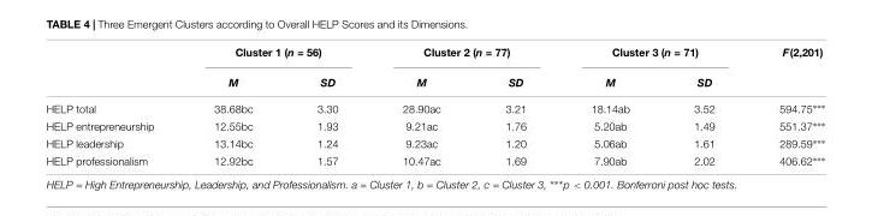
<table><thead><tr><td rowspan="2"></td><td colspan="2">Cluster 1 (n = 56)</td><td colspan="2">Cluster 2 (n = 77)</td><td colspan="2">Cluster 3 (n = 71)</td><td rowspan="2">F(2,201)</td></tr><tr><td>M</td><td>SD</td><td>M</td><td>SD</td><td>M</td><td>SD</td></tr></thead><tbody><tr><td>HELP total</td><td>38.68bc</td><td>3.30</td><td>28.90ac</td><td>3.21</td><td>18.14ab</td><td>3.52</td><td>594.75∗∗∗</td></tr><tr><td>HELP entrepreneurship</td><td>12.55bc</td><td>1.93</td><td>9.21ac</td><td>1.76</td><td>5.20ab</td><td>1.49</td><td>551.37∗∗∗</td></tr><tr><td>HELP leadership</td><td>13.14bc</td><td>1.24</td><td>9.23ac</td><td>1.20</td><td>5.06ab</td><td>1.61</td><td>289.59∗∗∗</td></tr><tr><td>HELP professionalism</td><td>12.92bc</td><td>1.57</td><td>10.47ac</td><td>1.69</td><td>7.90ab</td><td>2.02</td><td>406.62∗∗∗</td></tr></tbody></table>